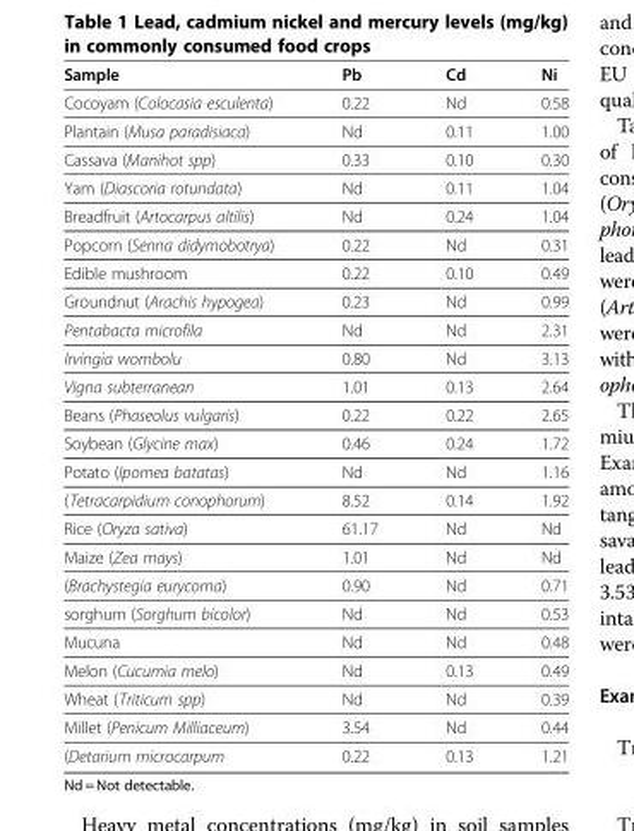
<table><thead><tr><td>Sample</td><td>Pb</td><td>Cd</td><td>Ni</td></tr></thead><tbody><tr><td>Cocoyam (Colocasia esculenta)</td><td>0.22</td><td>Nd</td><td>0.58</td></tr><tr><td>Plantain (Musa paradisiaca)</td><td>Nd</td><td>0.11</td><td>1.00</td></tr><tr><td>Cassava (Manihot spp)</td><td>0.33</td><td>0.10</td><td>0.30</td></tr><tr><td>Yam (Diascoria rotundata)</td><td>Nd</td><td>0.11</td><td>1.04</td></tr><tr><td>Breadfruit (Artocarpus altilis)</td><td>Nd</td><td>0.24</td><td>1.04</td></tr><tr><td>Popcorn (Senna didymobotrya)</td><td>0.22</td><td>Nd</td><td>0.31</td></tr><tr><td>Edible mushroom</td><td>0.22</td><td>0.10</td><td>0.49</td></tr><tr><td>Groundnut (Arachis hypogea)</td><td>0.23</td><td>Nd</td><td>0.99</td></tr><tr><td>Pentabacta microfila</td><td>Nd</td><td>Nd</td><td>2.31</td></tr><tr><td>Irvingia wombolu</td><td>0.80</td><td>Nd</td><td>3.13</td></tr><tr><td>Vigna subterranean</td><td>1.01</td><td>0.13</td><td>2.64</td></tr><tr><td>Beans (Phaseolus vulgaris)</td><td>0.22</td><td>0.22</td><td>2.65</td></tr><tr><td>Soybean (Glycine max)</td><td>0.46</td><td>0.24</td><td>1.72</td></tr><tr><td>Potato (Ipomea batatas)</td><td>Nd</td><td>Nd</td><td>1.16</td></tr><tr><td>(Tetracarpidium conophorum)</td><td>8.52</td><td>0.14</td><td>1.92</td></tr><tr><td>Rice (Oryza sativa)</td><td>61.17</td><td>Nd</td><td>Nd</td></tr><tr><td>Maize (Zea mays)</td><td>1.01</td><td>Nd</td><td>Nd</td></tr><tr><td>(Brachystegia eurycoma)</td><td>0.90</td><td>Nd</td><td>0.71</td></tr><tr><td>sorghum (Sorghum bicolor)</td><td>Nd</td><td>Nd</td><td>0.53</td></tr><tr><td>Mucuna</td><td>Nd</td><td>Nd</td><td>0.48</td></tr><tr><td>Melon (Cucumia melo)</td><td>Nd</td><td>0.13</td><td>0.49</td></tr><tr><td>Wheat (Triticum spp)</td><td>Nd</td><td>Nd</td><td>0.39</td></tr><tr><td>Millet (Penicum Milliaceum)</td><td>3.54</td><td>Nd</td><td>0.44</td></tr><tr><td>(Detarium microcarpum</td><td>0.22</td><td>0.13</td><td>1.21</td></tr></tbody></table>